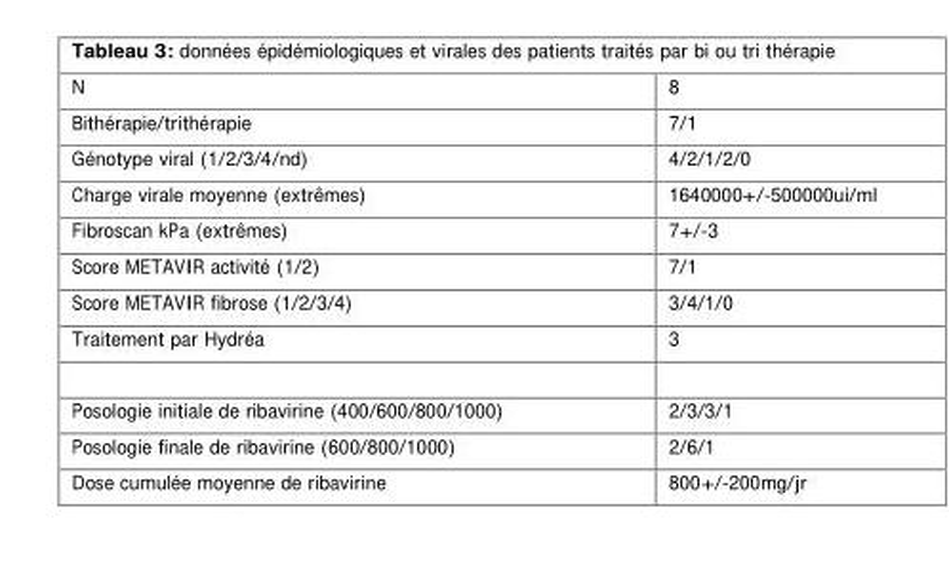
<table><thead><tr><td>N</td><td>8</td></tr></thead><tbody><tr><td>Bithérapie/trithérapie</td><td>7/1</td></tr><tr><td>Génotype viral (1/2/3/4/nd)</td><td>4/2/1/2/0</td></tr><tr><td>Charge virale moyenne (extrêmes)</td><td>1640000+/-500000ui/ml</td></tr><tr><td>Fibroscan kPa (extrêmes)</td><td>7+/-3</td></tr><tr><td>Score METAVIR activité (1/2)</td><td>7/1</td></tr><tr><td>Score METAVIR fibrose (1/2/3/4)</td><td>3/4/1/0</td></tr><tr><td>Traitement par Hydréa</td><td>3</td></tr><tr><td>Posologie initiale de ribavirine (400/600/800/1000)</td><td>2/3/3/1</td></tr><tr><td>Posologie finale de ribavirine (600/800/1000)</td><td>2/6/1</td></tr><tr><td>Dose cumulée moyenne de ribavirine</td><td>800+/-200mg/jr</td></tr></tbody></table>